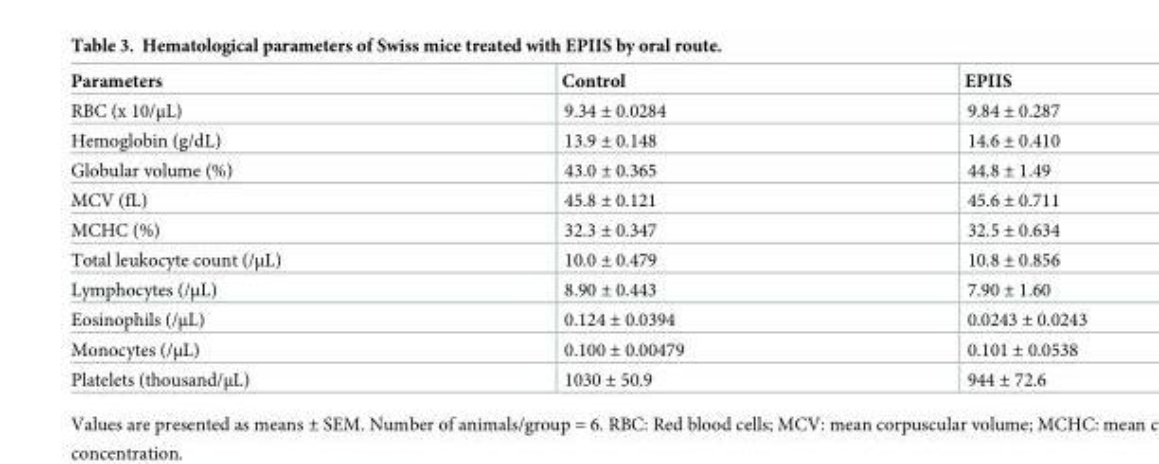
<table><thead><tr><td>Parameters</td><td>Control</td><td>EPIIS</td></tr></thead><tbody><tr><td>RBC (x 10/μL)</td><td>9.34 ± 0.0284</td><td>9.84 ± 0.287</td></tr><tr><td>Hemoglobin (g/dL)</td><td>13.9 ± 0.148</td><td>14.6 ± 0.410</td></tr><tr><td>Globular volume (%)</td><td>43.0 ± 0.365</td><td>44.8 ± 1.49</td></tr><tr><td>MCV (fL)</td><td>45.8 ± 0.121</td><td>45.6 ± 0.711</td></tr><tr><td>MCHC (%)</td><td>32.3 ± 0.347</td><td>32.5 ± 0.634</td></tr><tr><td>Total leukocyte count (/μL)</td><td>10.0 ± 0.479</td><td>10.8 ± 0.856</td></tr><tr><td>Lymphocytes (/μL)</td><td>8.90 ± 0.443</td><td>7.90 ± 1.60</td></tr><tr><td>Eosinophils (/μL)</td><td>0.124 ± 0.0394</td><td>0.0243 ± 0.0243</td></tr><tr><td>Monocytes (/μL)</td><td>0.100 ± 0.00479</td><td>0.101 ± 0.0538</td></tr><tr><td>Platelets (thousand/μL)</td><td>1030 ± 50.9</td><td>944 ± 72.6</td></tr></tbody></table>